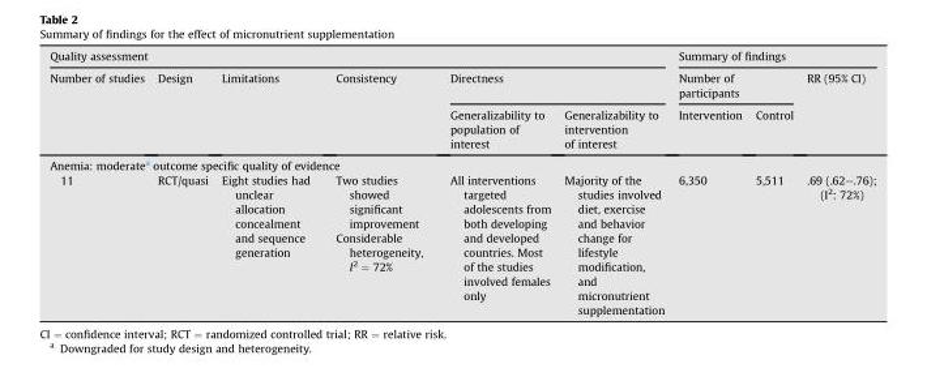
<table><thead><tr><td colspan="6">Quality assessment</td><td colspan="3">Summary of findings</td></tr><tr><td rowspan="2">Number of studies</td><td rowspan="2">Design</td><td rowspan="2">Limitations</td><td rowspan="2">Consistency</td><td colspan="2">Directness</td><td colspan="2">Number of participants</td><td rowspan="2">RR (95% CI)</td></tr><tr><td>Generalizability to population of interest</td><td>Generalizability to intervention of interest</td><td>Intervention</td><td>Control</td></tr></thead><tbody><tr><td colspan="9">Anemia: moderate<sup>a</sup> outcome specific quality of evidence</td></tr><tr><td>11</td><td>RCT/quasi</td><td>Eight studies had unclear allocation concealment and sequence generation</td><td>Two studies showed significant improvement Considerable heterogeneity, I<sup>2</sup> = 72%</td><td>All interventions targeted adolescents from both developing and developed countries. Most of the studies involved females only</td><td>Majority of the studies involved diet, exercise and behavior change for lifestyle modification, and micronutrient supplementation</td><td>6,350</td><td>5,511</td><td>.69 (.62–.76); (I<sup>2</sup>: 72%)</td></tr></tbody></table>